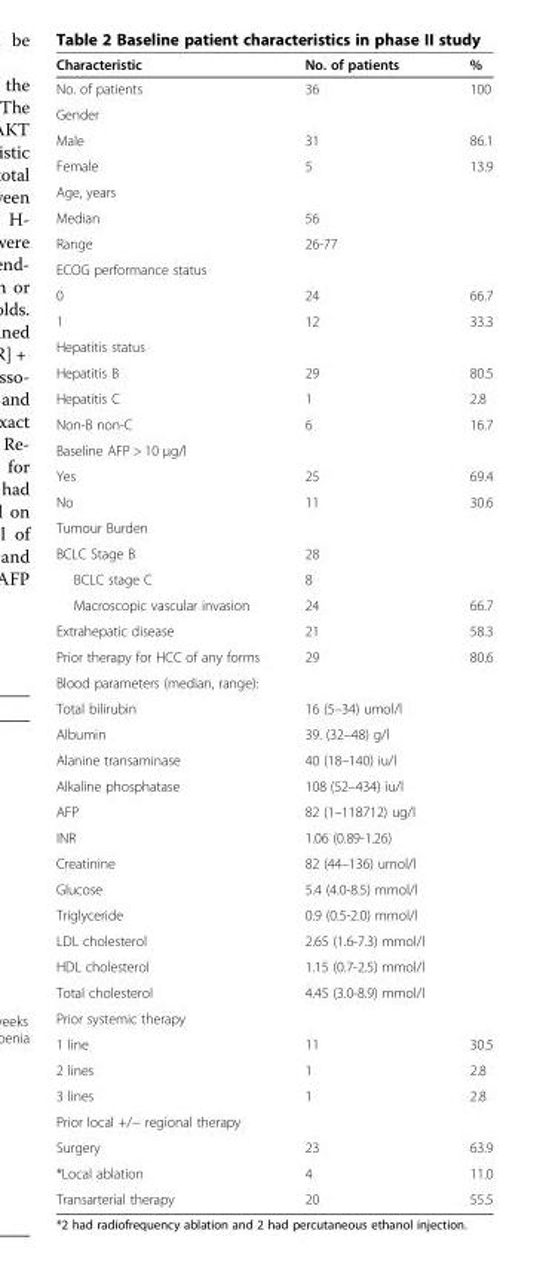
<table><thead><tr><td>Characteristic</td><td>No. of patients</td><td>%</td></tr></thead><tbody><tr><td>No. of patients</td><td>36</td><td>100</td></tr><tr><td colspan="3">Gender</td></tr><tr><td>Male</td><td>31</td><td>86.1</td></tr><tr><td>Female</td><td>5</td><td>13.9</td></tr><tr><td colspan="3">Age, years</td></tr><tr><td>Median</td><td>56</td><td></td></tr><tr><td>Range</td><td>26-77</td><td></td></tr><tr><td colspan="3">ECOG performance status</td></tr><tr><td>0</td><td>24</td><td>66.7</td></tr><tr><td>1</td><td>12</td><td>33.3</td></tr><tr><td colspan="3">Hepatitis status</td></tr><tr><td>Hepatitis B</td><td>29</td><td>80.5</td></tr><tr><td>Hepatitis C</td><td>1</td><td>2.8</td></tr><tr><td>Non-B non-C</td><td>6</td><td>16.7</td></tr><tr><td colspan="3">Baseline AFP &gt; 10 μg/l</td></tr><tr><td>Yes</td><td>25</td><td>69.4</td></tr><tr><td>No</td><td>11</td><td>30.6</td></tr><tr><td colspan="3">Tumour Burden</td></tr><tr><td>BCLC Stage B</td><td>28</td><td></td></tr><tr><td>BCLC stage C</td><td>8</td><td></td></tr><tr><td>Macroscopic vascular invasion</td><td>24</td><td>66.7</td></tr><tr><td>Extrahepatic disease</td><td>21</td><td>58.3</td></tr><tr><td>Prior therapy for HCC of any forms</td><td>29</td><td>80.6</td></tr><tr><td colspan="3">Blood parameters (median, range):</td></tr><tr><td>Total bilirubin</td><td>16 (5–34) umol/l</td><td></td></tr><tr><td>Albumin</td><td>39. (32–48) g/l</td><td></td></tr><tr><td>Alanine transaminase</td><td>40 (18–140) iu/l</td><td></td></tr><tr><td>Alkaline phosphatase</td><td>108 (52–434) iu/l</td><td></td></tr><tr><td>AFP</td><td>82 (1–118712) ug/l</td><td></td></tr><tr><td>INR</td><td>1.06 (0.89-1.26)</td><td></td></tr><tr><td>Creatinine</td><td>82 (44–136) umol/l</td><td></td></tr><tr><td>Glucose</td><td>5.4 (4.0-8.5) mmol/l</td><td></td></tr><tr><td>Triglyceride</td><td>0.9 (0.5-2.0) mmol/l</td><td></td></tr><tr><td>LDL cholesterol</td><td>2.65 (1.6-7.3) mmol/l</td><td></td></tr><tr><td>HDL cholesterol</td><td>1.15 (0.7-2.5) mmol/l</td><td></td></tr><tr><td>Total cholesterol</td><td>4.45 (3.0-8.9) mmol/l</td><td></td></tr><tr><td colspan="3">Prior systemic therapy</td></tr><tr><td>1 line</td><td>11</td><td>30.5</td></tr><tr><td>2 lines</td><td>1</td><td>2.8</td></tr><tr><td>3 lines</td><td>1</td><td>2.8</td></tr><tr><td colspan="3">Prior local +/− regional therapy</td></tr><tr><td>Surgery</td><td>23</td><td>63.9</td></tr><tr><td>*Local ablation</td><td>4</td><td>11.0</td></tr><tr><td>Transarterial therapy</td><td>20</td><td>55.5</td></tr></tbody></table>